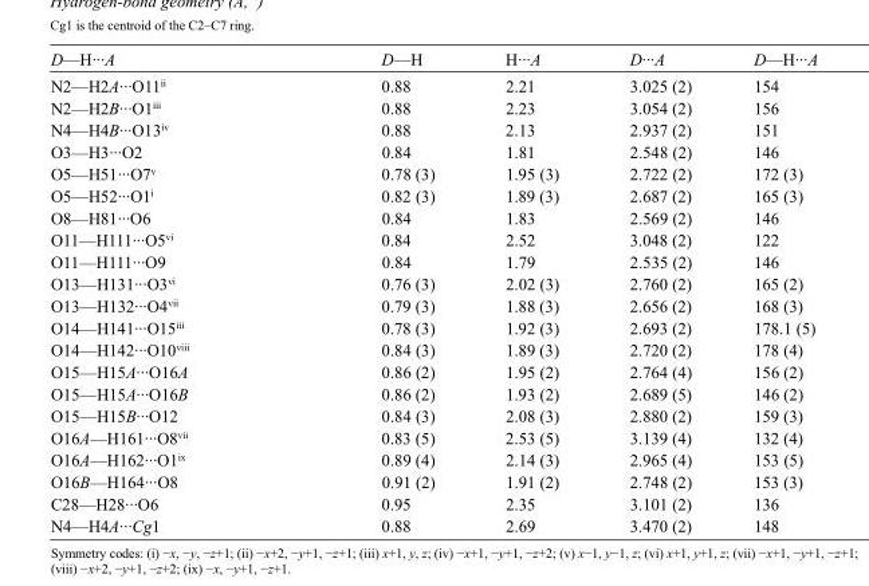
<table><tbody><tr><td>D—H···A</td><td>D—H</td><td>H···A</td><td>D···A</td><td>D—H···A</td></tr><tr><td>N2—H2A···O11<sup>ii</sup></td><td>0.88</td><td>2.21</td><td>3.025 (2)</td><td>154</td></tr><tr><td>N2—H2B···O1<sup>iii</sup></td><td>0.88</td><td>2.23</td><td>3.054 (2)</td><td>156</td></tr><tr><td>N4—H4B···O13<sup>iv</sup></td><td>0.88</td><td>2.13</td><td>2.937 (2)</td><td>151</td></tr><tr><td>O3—H3···O2</td><td>0.84</td><td>1.81</td><td>2.548 (2)</td><td>146</td></tr><tr><td>O5—H51···O7<sup>v</sup></td><td>0.78 (3)</td><td>1.95 (3)</td><td>2.722 (2)</td><td>172 (3)</td></tr><tr><td>O5—H52···O1<sup>i</sup></td><td>0.82 (3)</td><td>1.89 (3)</td><td>2.687 (2)</td><td>165 (3)</td></tr><tr><td>O8—H81···O6</td><td>0.84</td><td>1.83</td><td>2.569 (2)</td><td>146</td></tr><tr><td>O11—H111···O5<sup>vi</sup></td><td>0.84</td><td>2.52</td><td>3.048 (2)</td><td>122</td></tr><tr><td>O11—H111···O9</td><td>0.84</td><td>1.79</td><td>2.535 (2)</td><td>146</td></tr><tr><td>O13—H131···O3<sup>vi</sup></td><td>0.76 (3)</td><td>2.02 (3)</td><td>2.760 (2)</td><td>165 (2)</td></tr><tr><td>O13—H132···O4<sup>vii</sup></td><td>0.79 (3)</td><td>1.88 (3)</td><td>2.656 (2)</td><td>168 (3)</td></tr><tr><td>O14—H141···O15<sup>iii</sup></td><td>0.78 (3)</td><td>1.92 (3)</td><td>2.693 (2)</td><td>178.1 (5)</td></tr><tr><td>O14—H142···O10<sup>viii</sup></td><td>0.84 (3)</td><td>1.89 (3)</td><td>2.720 (2)</td><td>178 (4)</td></tr><tr><td>O15—H15A···O16A</td><td>0.86 (2)</td><td>1.95 (2)</td><td>2.764 (4)</td><td>156 (2)</td></tr><tr><td>O15—H15A···O16B</td><td>0.86 (2)</td><td>1.93 (2)</td><td>2.689 (5)</td><td>146 (2)</td></tr><tr><td>O15—H15B···O12</td><td>0.84 (3)</td><td>2.08 (3)</td><td>2.880 (2)</td><td>159 (3)</td></tr><tr><td>O16A—H161···O8<sup>vii</sup></td><td>0.83 (5)</td><td>2.53 (5)</td><td>3.139 (4)</td><td>132 (4)</td></tr><tr><td>O16A—H162···O1<sup>ix</sup></td><td>0.89 (4)</td><td>2.14 (3)</td><td>2.965 (4)</td><td>153 (5)</td></tr><tr><td>O16B—H164···O8</td><td>0.91 (2)</td><td>1.91 (2)</td><td>2.748 (2)</td><td>153 (3)</td></tr><tr><td>C28—H28···O6</td><td>0.95</td><td>2.35</td><td>3.101 (2)</td><td>136</td></tr><tr><td>N4—H4A···Cg1</td><td>0.88</td><td>2.69</td><td>3.470 (2)</td><td>148</td></tr></tbody></table>